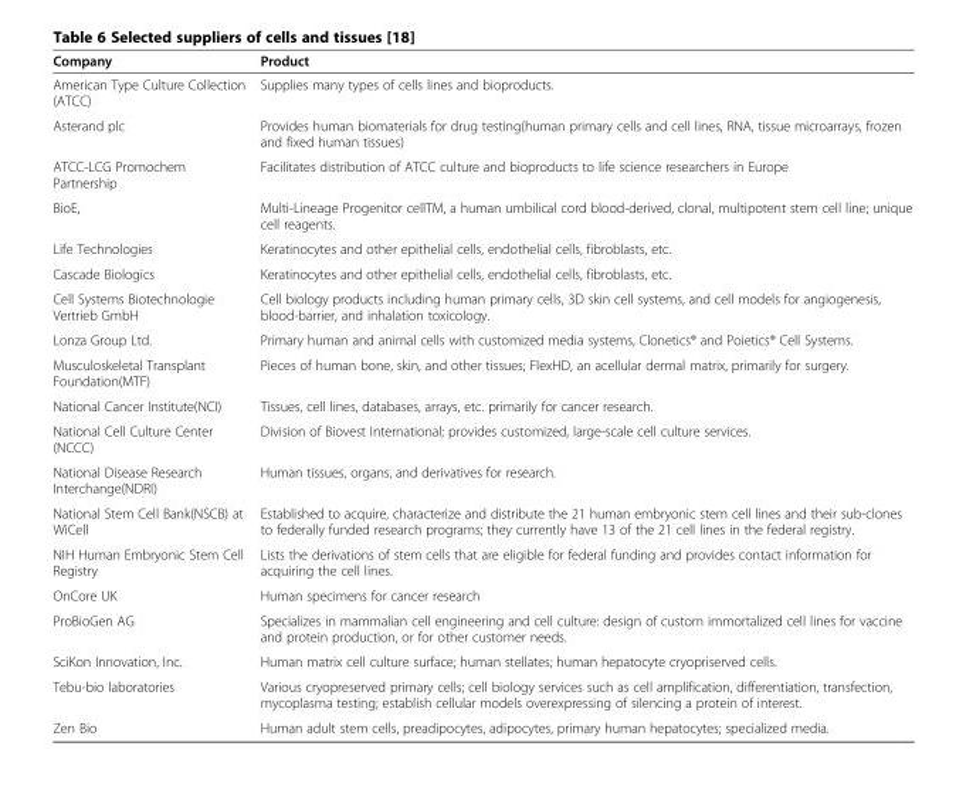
<table><thead><tr><td>Company</td><td>Product</td></tr></thead><tbody><tr><td>American Type Culture Collection (ATCC)</td><td>Supplies many types of cells lines and bioproducts.</td></tr><tr><td>Asterand plc</td><td>Provides human biomaterials for drug testing(human primary cells and cell lines, RNA, tissue microarrays, frozen and fixed human tissues)</td></tr><tr><td>ATCC-LCG Promochem Partnership</td><td>Facilitates distribution of ATCC culture and bioproducts to life science researchers in Europe</td></tr><tr><td>BioE,</td><td>Multi-Lineage Progenitor cellTM, a human umbilical cord blood-derived, clonal, multipotent stem cell line; unique cell reagents.</td></tr><tr><td>Life Technologies</td><td>Keratinocytes and other epithelial cells, endothelial cells, fibroblasts, etc.</td></tr><tr><td>Cascade Biologics</td><td>Keratinocytes and other epithelial cells, endothelial cells, fibroblasts, etc.</td></tr><tr><td>Cell Systems Biotechnologie Vertrieb GmbH</td><td>Cell biology products including human primary cells, 3D skin cell systems, and cell models for angiogenesis, blood-barrier, and inhalation toxicology.</td></tr><tr><td>Lonza Group Ltd.</td><td>Primary human and animal cells with customized media systems, Clonetics® and Poietics® Cell Systems.</td></tr><tr><td>Musculoskeletal Transplant Foundation(MTF)</td><td>Pieces of human bone, skin, and other tissues; FlexHD, an acellular dermal matrix, primarily for surgery.</td></tr><tr><td>National Cancer Institute(NCI)</td><td>Tissues, cell lines, databases, arrays, etc. primarily for cancer research.</td></tr><tr><td>National Cell Culture Center (NCCC)</td><td>Division of Biovest International; provides customized, large-scale cell culture services.</td></tr><tr><td>National Disease Research Interchange(NDRI)</td><td>Human tissues, organs, and derivatives for research.</td></tr><tr><td>National Stem Cell Bank(NSCB) at WiCell</td><td>Established to acquire, characterize and distribute the 21 human embryonic stem cell lines and their sub-clones to federally funded research programs; they currently have 13 of the 21 cell lines in the federal registry.</td></tr><tr><td>NIH Human Embryonic Stem Cell Registry</td><td>Lists the derivations of stem cells that are eligible for federal funding and provides contact information for acquiring the cell lines.</td></tr><tr><td>OnCore UK</td><td>Human specimens for cancer research</td></tr><tr><td>ProBioGen AG</td><td>Specializes in mammalian cell engineering and cell culture: design of custom immortalized cell lines for vaccine and protein production, or for other customer needs.</td></tr><tr><td>SciKon Innovation, Inc.</td><td>Human matrix cell culture surface; human stellates; human hepatocyte cryopriserved cells.</td></tr><tr><td>Tebu-bio laboratories</td><td>Various cryopreserved primary cells; cell biology services such as cell amplification, differentiation, transfection, mycoplasma testing; establish cellular models overexpressing of silencing a protein of interest.</td></tr><tr><td>Zen Bio</td><td>Human adult stem cells, preadipocytes, adipocytes, primary human hepatocytes; specialized media.</td></tr></tbody></table>